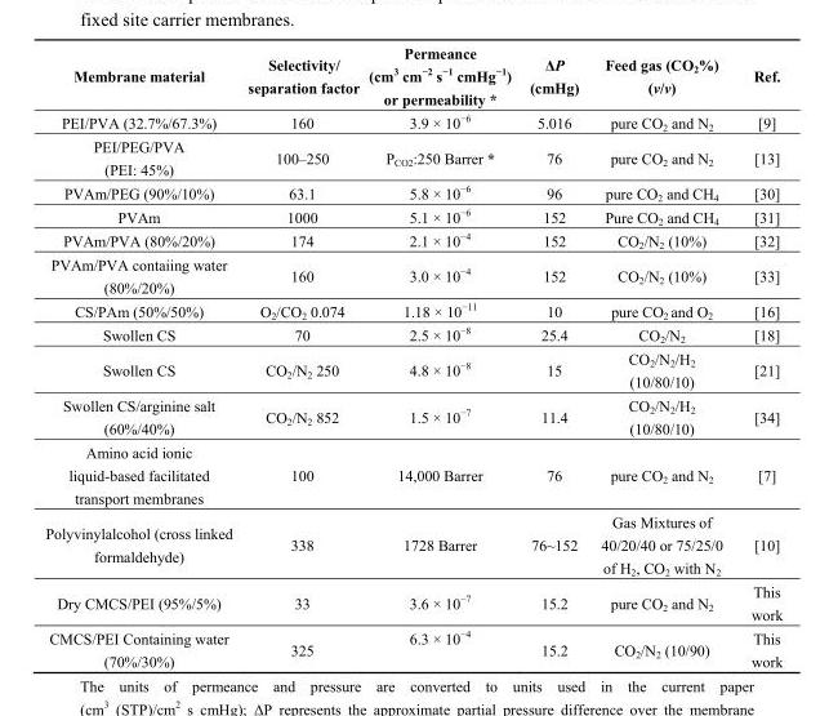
<table><thead><tr><td>Membrane material</td><td>Selectivity/ separation factor</td><td>Permeance (cm<sup>3</sup> cm<sup>−2</sup> s<sup>−1</sup> cmHg<sup>−1</sup>) or permeability *</td><td>ΔP (cmHg)</td><td>Feed gas (CO<sub>2</sub>%) (v/v)</td><td>Ref.</td></tr></thead><tbody><tr><td>PEI/PVA (32.7%/67.3%)</td><td>160</td><td>3.9 × 10<sup>−6</sup></td><td>5.016</td><td>pure CO<sub>2</sub> and N<sub>2</sub></td><td>[9]</td></tr><tr><td>PEI/PEG/PVA (PEI: 45%)</td><td>100–250</td><td>P<sub>CO2</sub>:250 Barrer *</td><td>76</td><td>pure CO<sub>2</sub> and N<sub>2</sub></td><td>[13]</td></tr><tr><td>PVAm/PEG (90%/10%)</td><td>63.1</td><td>5.8 × 10<sup>−6</sup></td><td>96</td><td>pure CO<sub>2</sub> and CH<sub>4</sub></td><td>[30]</td></tr><tr><td>PVAm</td><td>1000</td><td>5.1 × 10<sup>−6</sup></td><td>152</td><td>Pure CO<sub>2</sub> and CH<sub>4</sub></td><td>[31]</td></tr><tr><td>PVAm/PVA (80%/20%)</td><td>174</td><td>2.1 × 10<sup>−4</sup></td><td>152</td><td>CO<sub>2</sub>/N<sub>2</sub> (10%)</td><td>[32]</td></tr><tr><td>PVAm/PVA contaiing water (80%/20%)</td><td>160</td><td>3.0 × 10<sup>−4</sup></td><td>152</td><td>CO<sub>2</sub>/N<sub>2</sub> (10%)</td><td>[33]</td></tr><tr><td>CS/PAm (50%/50%)</td><td>O<sub>2</sub>/CO<sub>2</sub> 0.074</td><td>1.18 × 10<sup>−11</sup></td><td>10</td><td>pure CO<sub>2</sub> and O<sub>2</sub></td><td>[16]</td></tr><tr><td>Swollen CS</td><td>70</td><td>2.5 × 10<sup>−8</sup></td><td>25.4</td><td>CO<sub>2</sub>/N<sub>2</sub></td><td>[18]</td></tr><tr><td>Swollen CS</td><td>CO<sub>2</sub>/N<sub>2</sub> 250</td><td>4.8 × 10<sup>−8</sup></td><td>15</td><td>CO<sub>2</sub>/N<sub>2</sub>/H<sub>2</sub> (10/80/10)</td><td>[21]</td></tr><tr><td>Swollen CS/arginine salt (60%/40%)</td><td>CO<sub>2</sub>/N<sub>2</sub> 852</td><td>1.5 × 10<sup>−7</sup></td><td>11.4</td><td>CO<sub>2</sub>/N<sub>2</sub>/H<sub>2</sub> (10/80/10)</td><td>[34]</td></tr><tr><td>Amino acid ionic liquid-based facilitated transport membranes</td><td>100</td><td>14,000 Barrer</td><td>76</td><td>pure CO<sub>2</sub> and N<sub>2</sub></td><td>[7]</td></tr><tr><td>Polyvinylalcohol (cross linked formaldehyde)</td><td>338</td><td>1728 Barrer</td><td>76~152</td><td>Gas Mixtures of 40/20/40 or 75/25/0 of H<sub>2</sub>, CO<sub>2</sub> with N<sub>2</sub></td><td>[10]</td></tr><tr><td>Dry CMCS/PEI (95%/5%)</td><td>33</td><td>3.6 × 10<sup>−7</sup></td><td>15.2</td><td>pure CO<sub>2</sub> and N<sub>2</sub></td><td>This work</td></tr><tr><td>CMCS/PEI Containing water (70%/30%)</td><td>325</td><td>6.3 × 10<sup>−4</sup></td><td>15.2</td><td>CO<sub>2</sub>/N<sub>2</sub> (10/90)</td><td>This work</td></tr></tbody></table>